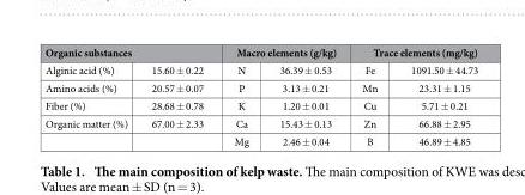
<table><thead><tr><td colspan="2">Organic substances</td><td colspan="2">Macro elements (g/kg)</td><td colspan="2">Trace elements (mg/kg)</td></tr><tr><td>Alginic acid (%)</td><td>15.60 ± 0.22</td><td>N</td><td>36.39 ± 0.53</td><td>Fe</td><td>1091.50 ± 44.73</td></tr></thead><tbody><tr><td>Amino acids (%)</td><td>20.57 ± 0.07</td><td>P</td><td>3.13 ± 0.21</td><td>Mn</td><td>23.31 ± 1.15</td></tr><tr><td>Fiber (%)</td><td>28.68 ± 0.78</td><td>K</td><td>1.20 ± 0.01</td><td>Cu</td><td>5.71 ± 0.21</td></tr><tr><td rowspan="2">Organic matter (%)</td><td>67.00 ± 2.33</td><td>Ca</td><td>15.43 ± 0.13</td><td>Zn</td><td>66.88 ± 2.95</td></tr><tr><td></td><td>Mg</td><td>2.46 ± 0.04</td><td>B</td><td>46.89 ± 4.85</td></tr></tbody></table>